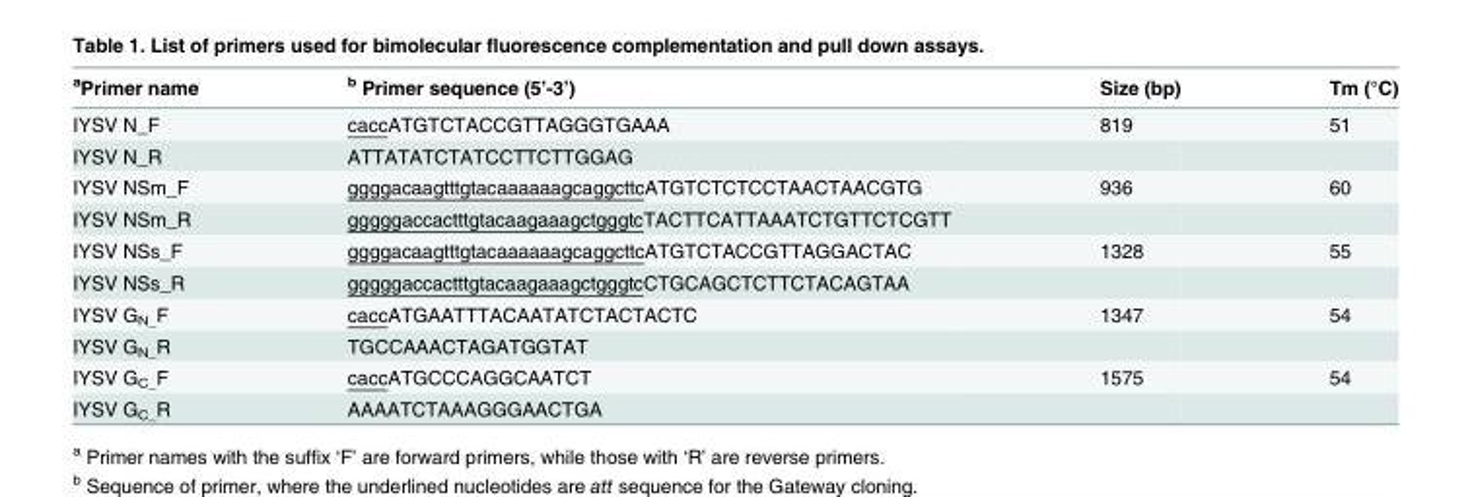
<table><thead><tr><td><sup>a</sup>Primer name</td><td><sup>b</sup> Primer sequence (5’-3’)</td><td>Size (bp)</td><td>Tm (°C)</td></tr></thead><tbody><tr><td>IYSV N_F</td><td>caccATGTCTACCGTTAGGGTGAAA</td><td>819</td><td>51</td></tr><tr><td>IYSV N_R</td><td>ATTATATCTATCCTTCTTGGAG</td><td></td><td></td></tr><tr><td>IYSV NSm_F</td><td>ggggacaagtttgtacaaaaaagcaggcttcATGTCTCTCCTAACTAACGTG</td><td>936</td><td>60</td></tr><tr><td>IYSV NSm_R</td><td>gggggaccactttgtacaagaaagctgggtcTACTTCATTAAATCTGTTCTCGTT</td><td></td><td></td></tr><tr><td>IYSV NSs_F</td><td>ggggacaagtttgtacaaaaaagcaggcttcATGTCTACCGTTAGGACTAC</td><td>1328</td><td>55</td></tr><tr><td>IYSV NSs_R</td><td>gggggaccactttgtacaagaaagctgggtcCTGCAGCTCTTCTACAGTAA</td><td></td><td></td></tr><tr><td>IYSV GN_F</td><td>caccATGAATTTACAATATCTACTACTC</td><td>1347</td><td>54</td></tr><tr><td>IYSV GN_R</td><td>TGCCAAACTAGATGGTAT</td><td></td><td></td></tr><tr><td>IYSV GC_F</td><td>caccATGCCCAGGCAATCT</td><td>1575</td><td>54</td></tr><tr><td>IYSV GC_R</td><td>AAAATCTAAAGGGAACTGA</td><td></td><td></td></tr></tbody></table>